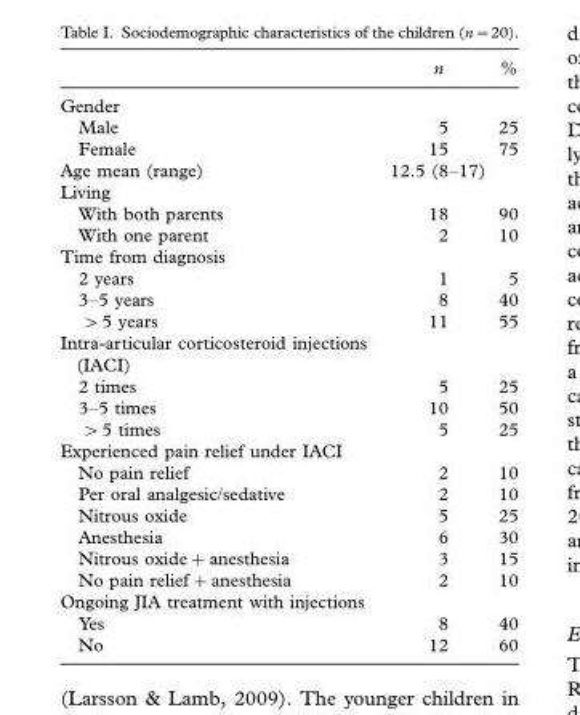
<table><thead><tr><td></td><td>n</td><td>%</td></tr></thead><tbody><tr><td colspan="3">Gender</td></tr><tr><td>Male</td><td>5</td><td>25</td></tr><tr><td>Female</td><td>15</td><td>75</td></tr><tr><td>Age mean (range)</td><td>12.5 (8–17)</td><td></td></tr><tr><td colspan="3">Living</td></tr><tr><td>With both parents</td><td>18</td><td>90</td></tr><tr><td>With one parent</td><td>2</td><td>10</td></tr><tr><td colspan="3">Time from diagnosis</td></tr><tr><td>2 years</td><td>1</td><td>5</td></tr><tr><td>3–5 years</td><td>8</td><td>40</td></tr><tr><td>&gt;5 years</td><td>11</td><td>55</td></tr><tr><td colspan="3">Intra-articular corticosteroid injections (IACI)</td></tr><tr><td>2 times</td><td>5</td><td>25</td></tr><tr><td>3–5 times</td><td>10</td><td>50</td></tr><tr><td>&gt;5 times</td><td>5</td><td>25</td></tr><tr><td colspan="3">Experienced pain relief under IACI</td></tr><tr><td>No pain relief</td><td>2</td><td>10</td></tr><tr><td>Per oral analgesic/sedative</td><td>2</td><td>10</td></tr><tr><td>Nitrous oxide</td><td>5</td><td>25</td></tr><tr><td>Anesthesia</td><td>6</td><td>30</td></tr><tr><td>Nitrous oxide+anesthesia</td><td>3</td><td>15</td></tr><tr><td>No pain relief+anesthesia</td><td>2</td><td>10</td></tr><tr><td colspan="3">Ongoing JIA treatment with injections</td></tr><tr><td>Yes</td><td>8</td><td>40</td></tr><tr><td>No</td><td>12</td><td>60</td></tr></tbody></table>